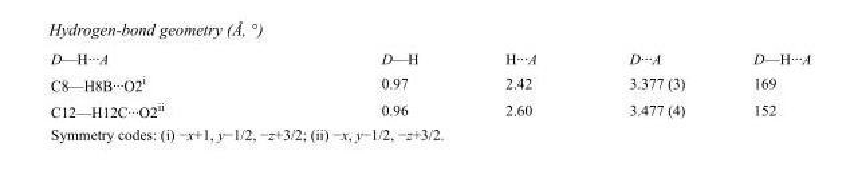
<table><tbody><tr><td>D—H···A</td><td>D—H</td><td>H···A</td><td>D···A</td><td>D—H···A</td></tr><tr><td>C8—H8B···O2<sup>i</sup></td><td>0.97</td><td>2.42</td><td>3.377 (3)</td><td>169</td></tr><tr><td>C12—H12C···O2<sup>ii</sup></td><td>0.96</td><td>2.60</td><td>3.477 (4)</td><td>152</td></tr></tbody></table>